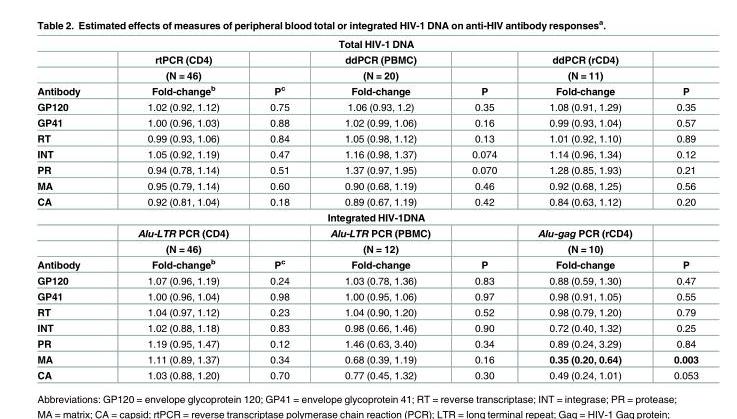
<table><tbody><tr><td colspan="7">Total HIV-1 DNA</td></tr><tr><td></td><td>rtPCR (CD4)</td><td></td><td>ddPCR (PBMC)</td><td></td><td>ddPCR (rCD4)</td><td></td></tr><tr><td></td><td>(N = 46)</td><td></td><td>(N = 20)</td><td></td><td>(N = 11)</td><td></td></tr><tr><td>Antibody</td><td>Fold-change<sup>b</sup></td><td>P<sup>c</sup></td><td>Fold-change</td><td>P</td><td>Fold-change</td><td>P</td></tr><tr><td>GP120</td><td>1.02 (0.92, 1.12)</td><td>0.75</td><td>1.06 (0.93, 1.2)</td><td>0.35</td><td>1.08 (0.91, 1.29)</td><td>0.35</td></tr><tr><td>GP41</td><td>1.00 (0.96, 1.03)</td><td>0.88</td><td>1.02 (0.99, 1.06)</td><td>0.16</td><td>0.99 (0.93, 1.04)</td><td>0.57</td></tr><tr><td>RT</td><td>0.99 (0.93, 1.06)</td><td>0.84</td><td>1.05 (0.98, 1.12)</td><td>0.13</td><td>1.01 (0.92, 1.10)</td><td>0.89</td></tr><tr><td>INT</td><td>1.05 (0.92, 1.19)</td><td>0.47</td><td>1.16 (0.98, 1.37)</td><td>0.074</td><td>1.14 (0.96, 1.34)</td><td>0.12</td></tr><tr><td>PR</td><td>0.94 (0.78, 1.14)</td><td>0.51</td><td>1.37 (0.97, 1.95)</td><td>0.070</td><td>1.28 (0.85, 1.93)</td><td>0.21</td></tr><tr><td>MA</td><td>0.95 (0.79, 1.14)</td><td>0.60</td><td>0.90 (0.68, 1.19)</td><td>0.46</td><td>0.92 (0.68, 1.25)</td><td>0.56</td></tr><tr><td>CA</td><td>0.92 (0.81, 1.04)</td><td>0.18</td><td>0.89 (0.67, 1.19)</td><td>0.42</td><td>0.84 (0.63, 1.12)</td><td>0.20</td></tr><tr><td colspan="7">Integrated HIV-1DNA</td></tr><tr><td></td><td>Alu-LTR PCR (CD4)</td><td></td><td>Alu-LTR PCR (PBMC)</td><td></td><td>Alu-gag PCR (rCD4)</td><td></td></tr><tr><td></td><td>(N = 46)</td><td></td><td>(N = 12)</td><td></td><td>(N = 10)</td><td></td></tr><tr><td>Antibody</td><td>Fold-change<sup>b</sup></td><td>P<sup>c</sup></td><td>Fold-change</td><td>P</td><td>Fold-change</td><td>P</td></tr><tr><td>GP120</td><td>1.07 (0.96, 1.19)</td><td>0.24</td><td>1.03 (0.78, 1.36)</td><td>0.83</td><td>0.88 (0.59, 1.30)</td><td>0.47</td></tr><tr><td>GP41</td><td>1.00 (0.96, 1.04)</td><td>0.98</td><td>1.00 (0.95, 1.06)</td><td>0.97</td><td>0.98 (0.91, 1.05)</td><td>0.55</td></tr><tr><td>RT</td><td>1.04 (0.97, 1.12)</td><td>0.23</td><td>1.04 (0.90, 1.20)</td><td>0.52</td><td>0.98 (0.79, 1.20)</td><td>0.79</td></tr><tr><td>INT</td><td>1.02 (0.88, 1.18)</td><td>0.83</td><td>0.98 (0.66, 1.46)</td><td>0.90</td><td>0.72 (0.40, 1.32)</td><td>0.25</td></tr><tr><td>PR</td><td>1.19 (0.95, 1.47)</td><td>0.12</td><td>1.46 (0.63, 3.40)</td><td>0.34</td><td>0.89 (0.24, 3.29)</td><td>0.84</td></tr><tr><td>MA</td><td>1.11 (0.89, 1.37)</td><td>0.34</td><td>0.68 (0.39, 1.19)</td><td>0.16</td><td>0.35 (0.20, 0.64)</td><td>0.003</td></tr><tr><td>CA</td><td>1.03 (0.88, 1.20)</td><td>0.70</td><td>0.77 (0.45, 1.32)</td><td>0.30</td><td>0.49 (0.24, 1.01)</td><td>0.053</td></tr></tbody></table>